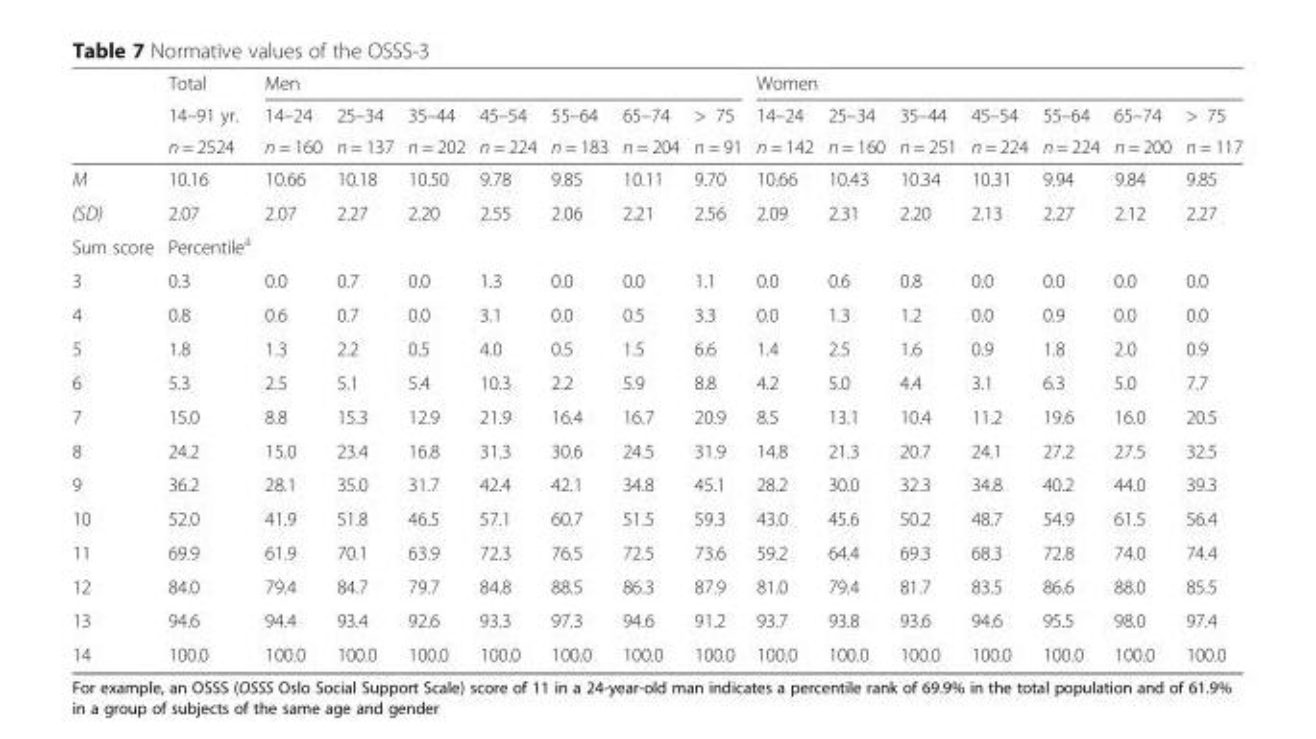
<table><thead><tr><td rowspan="3"></td><td rowspan="3">Total 14–91 yr. n = 2524</td><td colspan="7">Men</td><td colspan="7">Women</td></tr><tr><td rowspan="2">14–24 n = 160</td><td rowspan="2">25–34 n = 137</td><td rowspan="2">35–44 n = 202</td><td rowspan="2">45–54 n = 224</td><td rowspan="2">55–64 n = 183</td><td rowspan="2">65–74 n = 204</td><td rowspan="2">&gt; 75 n = 91</td><td rowspan="2">14–24 n = 142</td><td rowspan="2">25–34 n = 160</td><td rowspan="2">35–44 n = 251</td><td rowspan="2">45–54 n = 224</td><td rowspan="2">55–64 n = 224</td><td rowspan="2">65–74 n = 200</td><td rowspan="2">&gt; 75 n = 117</td></tr><tr></tr></thead><tbody><tr><td>M</td><td>10.16</td><td>10.66</td><td>10.18</td><td>10.50</td><td>9.78</td><td>9.85</td><td>10.11</td><td>9.70</td><td>10.66</td><td>10.43</td><td>10.34</td><td>10.31</td><td>9.94</td><td>9.84</td><td>9.85</td></tr><tr><td>(SD)</td><td>2.07</td><td>2.07</td><td>2.27</td><td>2.20</td><td>2.55</td><td>2.06</td><td>2.21</td><td>2.56</td><td>2.09</td><td>2.31</td><td>2.20</td><td>2.13</td><td>2.27</td><td>2.12</td><td>2.27</td></tr><tr><td>Sum score</td><td>Percentile<sup>a</sup></td><td></td><td></td><td></td><td></td><td></td><td></td><td></td><td></td><td></td><td></td><td></td><td></td><td></td><td></td></tr><tr><td>3</td><td>0.3</td><td>0.0</td><td>0.7</td><td>0.0</td><td>1.3</td><td>0.0</td><td>0.0</td><td>1.1</td><td>0.0</td><td>0.6</td><td>0.8</td><td>0.0</td><td>0.0</td><td>0.0</td><td>0.0</td></tr><tr><td>4</td><td>0.8</td><td>0.6</td><td>0.7</td><td>0.0</td><td>3.1</td><td>0.0</td><td>0.5</td><td>3.3</td><td>0.0</td><td>1.3</td><td>1.2</td><td>0.0</td><td>0.9</td><td>0.0</td><td>0.0</td></tr><tr><td>5</td><td>1.8</td><td>1.3</td><td>2.2</td><td>0.5</td><td>4.0</td><td>0.5</td><td>1.5</td><td>6.6</td><td>1.4</td><td>2.5</td><td>1.6</td><td>0.9</td><td>1.8</td><td>2.0</td><td>0.9</td></tr><tr><td>6</td><td>5.3</td><td>2.5</td><td>5.1</td><td>5.4</td><td>10.3</td><td>2.2</td><td>5.9</td><td>8.8</td><td>4.2</td><td>5.0</td><td>4.4</td><td>3.1</td><td>6.3</td><td>5.0</td><td>7.7</td></tr><tr><td>7</td><td>15.0</td><td>8.8</td><td>15.3</td><td>12.9</td><td>21.9</td><td>16.4</td><td>16.7</td><td>20.9</td><td>8.5</td><td>13.1</td><td>10.4</td><td>11.2</td><td>19.6</td><td>16.0</td><td>20.5</td></tr><tr><td>8</td><td>24.2</td><td>15.0</td><td>23.4</td><td>16.8</td><td>31.3</td><td>30.6</td><td>24.5</td><td>31.9</td><td>14.8</td><td>21.3</td><td>20.7</td><td>24.1</td><td>27.2</td><td>27.5</td><td>32.5</td></tr><tr><td>9</td><td>36.2</td><td>28.1</td><td>35.0</td><td>31.7</td><td>42.4</td><td>42.1</td><td>34.8</td><td>45.1</td><td>28.2</td><td>30.0</td><td>32.3</td><td>34.8</td><td>40.2</td><td>44.0</td><td>39.3</td></tr><tr><td>10</td><td>52.0</td><td>41.9</td><td>51.8</td><td>46.5</td><td>57.1</td><td>60.7</td><td>51.5</td><td>59.3</td><td>43.0</td><td>45.6</td><td>50.2</td><td>48.7</td><td>54.9</td><td>61.5</td><td>56.4</td></tr><tr><td>11</td><td>69.9</td><td>61.9</td><td>70.1</td><td>63.9</td><td>72.3</td><td>76.5</td><td>72.5</td><td>73.6</td><td>59.2</td><td>64.4</td><td>69.3</td><td>68.3</td><td>72.8</td><td>74.0</td><td>74.4</td></tr><tr><td>12</td><td>84.0</td><td>79.4</td><td>84.7</td><td>79.7</td><td>84.8</td><td>88.5</td><td>86.3</td><td>87.9</td><td>81.0</td><td>79.4</td><td>81.7</td><td>83.5</td><td>86.6</td><td>88.0</td><td>85.5</td></tr><tr><td>13</td><td>94.6</td><td>94.4</td><td>93.4</td><td>92.6</td><td>93.3</td><td>97.3</td><td>94.6</td><td>91.2</td><td>93.7</td><td>93.8</td><td>93.6</td><td>94.6</td><td>95.5</td><td>98.0</td><td>97.4</td></tr><tr><td>14</td><td>100.0</td><td>100.0</td><td>100.0</td><td>100.0</td><td>100.0</td><td>100.0</td><td>100.0</td><td>100.0</td><td>100.0</td><td>100.0</td><td>100.0</td><td>100.0</td><td>100.0</td><td>100.0</td><td>100.0</td></tr></tbody></table>